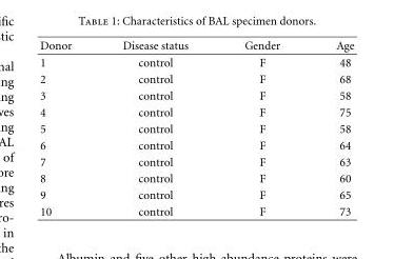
<table><thead><tr><td>Donor</td><td>Disease status</td><td>Gender</td><td>Age</td></tr></thead><tbody><tr><td>1</td><td>control</td><td>F</td><td>48</td></tr><tr><td>2</td><td>control</td><td>F</td><td>68</td></tr><tr><td>3</td><td>control</td><td>F</td><td>58</td></tr><tr><td>4</td><td>control</td><td>F</td><td>75</td></tr><tr><td>5</td><td>control</td><td>F</td><td>58</td></tr><tr><td>6</td><td>control</td><td>F</td><td>64</td></tr><tr><td>7</td><td>control</td><td>F</td><td>63</td></tr><tr><td>8</td><td>control</td><td>F</td><td>60</td></tr><tr><td>9</td><td>control</td><td>F</td><td>65</td></tr><tr><td>10</td><td>control</td><td>F</td><td>73</td></tr></tbody></table>